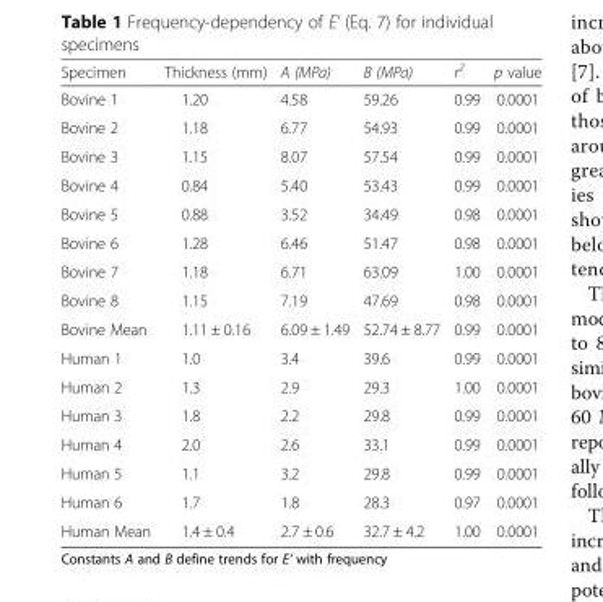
<table><thead><tr><td>Specimen</td><td>Thickness (mm)</td><td>A (MPa)</td><td>B (MPa)</td><td>r<sup>2</sup></td><td>p value</td></tr></thead><tbody><tr><td>Bovine 1</td><td>1.20</td><td>4.58</td><td>59.26</td><td>0.99</td><td>0.0001</td></tr><tr><td>Bovine 2</td><td>1.18</td><td>6.77</td><td>54.93</td><td>0.99</td><td>0.0001</td></tr><tr><td>Bovine 3</td><td>1.15</td><td>8.07</td><td>57.54</td><td>0.99</td><td>0.0001</td></tr><tr><td>Bovine 4</td><td>0.84</td><td>5.40</td><td>53.43</td><td>0.99</td><td>0.0001</td></tr><tr><td>Bovine 5</td><td>0.88</td><td>3.52</td><td>34.49</td><td>0.98</td><td>0.0001</td></tr><tr><td>Bovine 6</td><td>1.28</td><td>6.46</td><td>51.47</td><td>0.98</td><td>0.0001</td></tr><tr><td>Bovine 7</td><td>1.18</td><td>6.71</td><td>63.09</td><td>1.00</td><td>0.0001</td></tr><tr><td>Bovine 8</td><td>1.15</td><td>7.19</td><td>47.69</td><td>0.98</td><td>0.0001</td></tr><tr><td>Bovine Mean</td><td>1.11 ± 0.16</td><td>6.09 ± 1.49</td><td>52.74 ± 8.77</td><td>0.99</td><td>0.0001</td></tr><tr><td>Human 1</td><td>1.0</td><td>3.4</td><td>39.6</td><td>0.99</td><td>0.0001</td></tr><tr><td>Human 2</td><td>1.3</td><td>2.9</td><td>29.3</td><td>1.00</td><td>0.0001</td></tr><tr><td>Human 3</td><td>1.8</td><td>2.2</td><td>29.8</td><td>0.99</td><td>0.0001</td></tr><tr><td>Human 4</td><td>2.0</td><td>2.6</td><td>33.1</td><td>0.99</td><td>0.0001</td></tr><tr><td>Human 5</td><td>1.1</td><td>3.2</td><td>29.8</td><td>0.99</td><td>0.0001</td></tr><tr><td>Human 6</td><td>1.7</td><td>1.8</td><td>28.3</td><td>0.97</td><td>0.0001</td></tr><tr><td>Human Mean</td><td>1.4 ± 0.4</td><td>2.7 ± 0.6</td><td>32.7 ± 4.2</td><td>1.00</td><td>0.0001</td></tr></tbody></table>